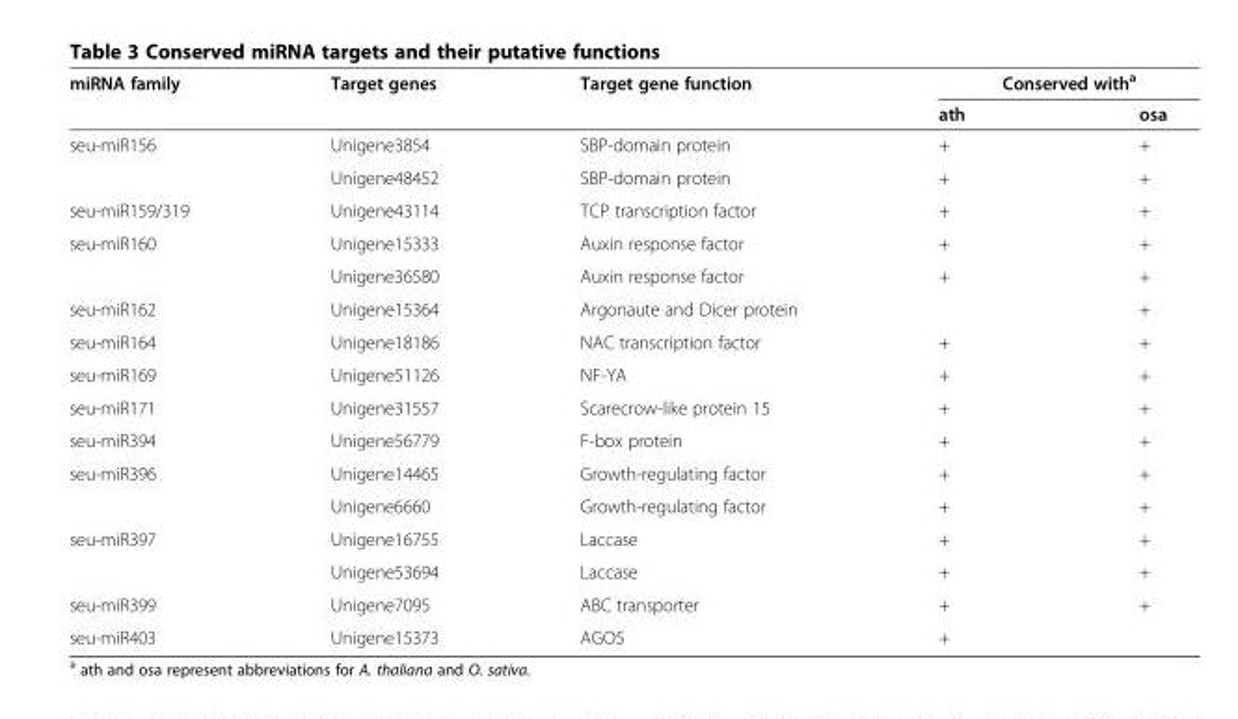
<table><thead><tr><td rowspan="2">miRNA family</td><td rowspan="2">Target genes</td><td rowspan="2">Target gene function</td><td colspan="2">Conserved with<sup>a</sup></td></tr><tr><td>ath</td><td>osa</td></tr></thead><tbody><tr><td rowspan="2">seu-miR156</td><td>Unigene3854</td><td>SBP-domain protein</td><td>+</td><td>+</td></tr><tr><td>Unigene48452</td><td>SBP-domain protein</td><td>+</td><td>+</td></tr><tr><td>seu-miR159/319</td><td>Unigene43114</td><td>TCP transcription factor</td><td>+</td><td>+</td></tr><tr><td rowspan="2">seu-miR160</td><td>Unigene15333</td><td>Auxin response factor</td><td>+</td><td>+</td></tr><tr><td>Unigene36580</td><td>Auxin response factor</td><td>+</td><td>+</td></tr><tr><td>seu-miR162</td><td>Unigene15364</td><td>Argonaute and Dicer protein</td><td></td><td>+</td></tr><tr><td>seu-miR164</td><td>Unigene18186</td><td>NAC transcription factor</td><td>+</td><td>+</td></tr><tr><td>seu-miR169</td><td>Unigene51126</td><td>NF-YA</td><td>+</td><td>+</td></tr><tr><td>seu-miR171</td><td>Unigene31557</td><td>Scarecrow-like protein 15</td><td>+</td><td>+</td></tr><tr><td>seu-miR394</td><td>Unigene56779</td><td>F-box protein</td><td>+</td><td>+</td></tr><tr><td rowspan="2">seu-miR396</td><td>Unigene14465</td><td>Growth-regulating factor</td><td>+</td><td>+</td></tr><tr><td>Unigene6660</td><td>Growth-regulating factor</td><td>+</td><td>+</td></tr><tr><td rowspan="2">seu-miR397</td><td>Unigene16755</td><td>Laccase</td><td>+</td><td>+</td></tr><tr><td>Unigene53694</td><td>Laccase</td><td>+</td><td>+</td></tr><tr><td>seu-miR399</td><td>Unigene7095</td><td>ABC transporter</td><td>+</td><td>+</td></tr><tr><td>seu-miR403</td><td>Unigene15373</td><td>AGO5</td><td>+</td><td></td></tr></tbody></table>